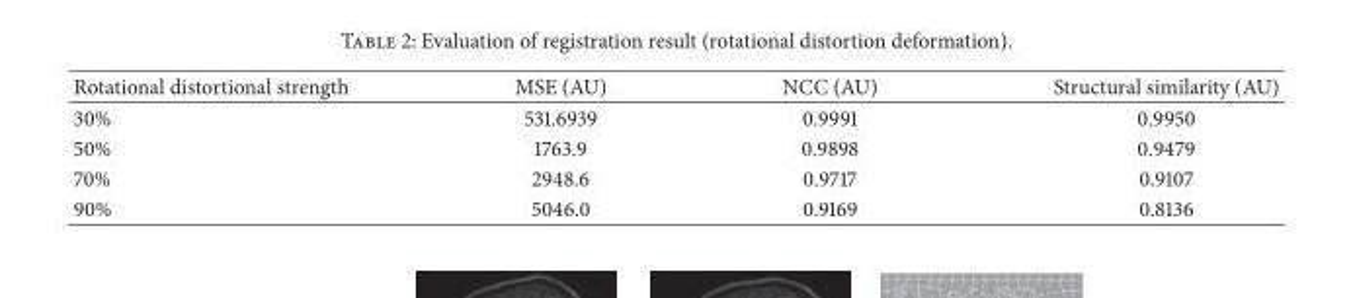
<table><thead><tr><td>Rotational distortional strength</td><td>MSE (AU)</td><td>NCC (AU)</td><td>Structural similarity (AU)</td></tr></thead><tbody><tr><td>30%</td><td>531.6939</td><td>0.9991</td><td>0.9950</td></tr><tr><td>50%</td><td>1763.9</td><td>0.9898</td><td>0.9479</td></tr><tr><td>70%</td><td>2948.6</td><td>0.9717</td><td>0.9107</td></tr><tr><td>90%</td><td>5046.0</td><td>0.9169</td><td>0.8136</td></tr></tbody></table>